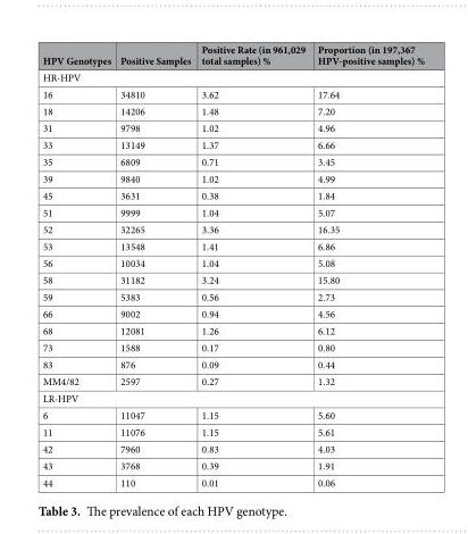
<table><thead><tr><td>HPV Genotypes</td><td>Positive Samples</td><td>Positive Rate (in 961,029 total samples) %</td><td>Proportion (in 197,367 HPV-positive samples) %</td></tr></thead><tbody><tr><td colspan="4">HR-HPV</td></tr><tr><td>16</td><td>34810</td><td>3.62</td><td>17.64</td></tr><tr><td>18</td><td>14206</td><td>1.48</td><td>7.20</td></tr><tr><td>31</td><td>9798</td><td>1.02</td><td>4.96</td></tr><tr><td>33</td><td>13149</td><td>1.37</td><td>6.66</td></tr><tr><td>35</td><td>6809</td><td>0.71</td><td>3.45</td></tr><tr><td>39</td><td>9840</td><td>1.02</td><td>4.99</td></tr><tr><td>45</td><td>3631</td><td>0.38</td><td>1.84</td></tr><tr><td>51</td><td>9999</td><td>1.04</td><td>5.07</td></tr><tr><td>52</td><td>32265</td><td>3.36</td><td>16.35</td></tr><tr><td>53</td><td>13548</td><td>1.41</td><td>6.86</td></tr><tr><td>56</td><td>10034</td><td>1.04</td><td>5.08</td></tr><tr><td>58</td><td>31182</td><td>3.24</td><td>15.80</td></tr><tr><td>59</td><td>5383</td><td>0.56</td><td>2.73</td></tr><tr><td>66</td><td>9002</td><td>0.94</td><td>4.56</td></tr><tr><td>68</td><td>12081</td><td>1.26</td><td>6.12</td></tr><tr><td>73</td><td>1588</td><td>0.17</td><td>0.80</td></tr><tr><td>83</td><td>876</td><td>0.09</td><td>0.44</td></tr><tr><td>MM4/82</td><td>2597</td><td>0.27</td><td>1.32</td></tr><tr><td colspan="4">LR-HPV</td></tr><tr><td>6</td><td>11047</td><td>1.15</td><td>5.60</td></tr><tr><td>11</td><td>11076</td><td>1.15</td><td>5.61</td></tr><tr><td>42</td><td>7960</td><td>0.83</td><td>4.03</td></tr><tr><td>43</td><td>3768</td><td>0.39</td><td>1.91</td></tr><tr><td>44</td><td>110</td><td>0.01</td><td>0.06</td></tr></tbody></table>